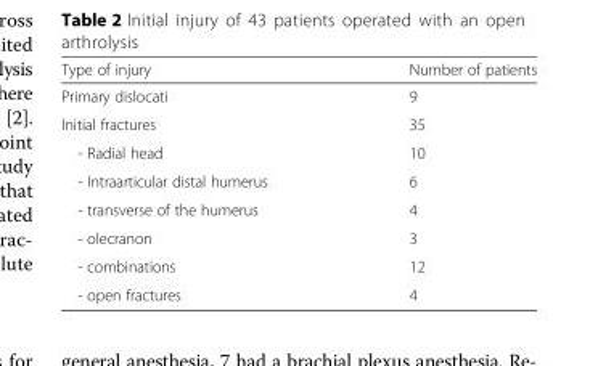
<table><thead><tr><td>Type of injury</td><td>Number of patients</td></tr></thead><tbody><tr><td>Primary dislocati</td><td>9</td></tr><tr><td>Initial fractures</td><td>35</td></tr><tr><td>- Radial head</td><td>10</td></tr><tr><td>- Intraarticular distal humerus</td><td>6</td></tr><tr><td>- transverse of the humerus</td><td>4</td></tr><tr><td>- olecranon</td><td>3</td></tr><tr><td>- combinations</td><td>12</td></tr><tr><td>- open fractures</td><td>4</td></tr></tbody></table>